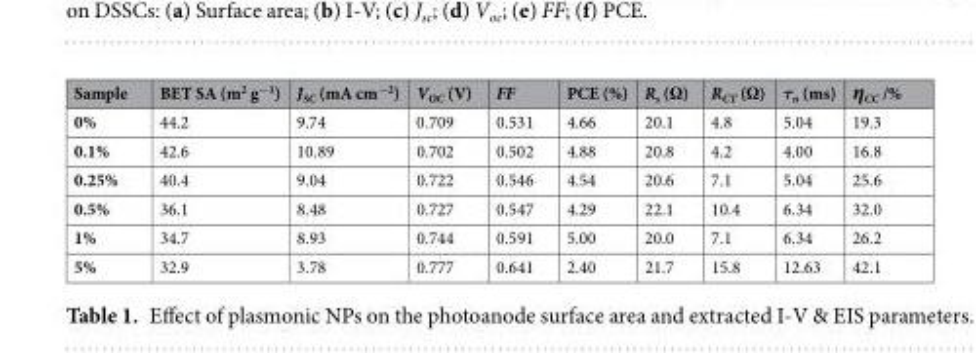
<table><thead><tr><td>Sample</td><td>BET SA (m<sup>2</sup> g<sup>−1</sup>)</td><td>J<sub>SC</sub> (mA cm<sup>−2</sup>)</td><td>V<sub>OC</sub> (V)</td><td>FF</td><td>PCE (%)</td><td>R<sub>s</sub> (Ω)</td><td>R<sub>CT</sub> (Ω)</td><td>τ<sub>n</sub> (ms)</td><td>η<sub>CC</sub> /%</td></tr></thead><tbody><tr><td>0%</td><td>44.2</td><td>9.74</td><td>0.709</td><td>0.531</td><td>4.66</td><td>20.1</td><td>4.8</td><td>5.04</td><td>19.3</td></tr><tr><td>0.1%</td><td>42.6</td><td>10.89</td><td>0.702</td><td>0.502</td><td>4.88</td><td>20.8</td><td>4.2</td><td>4.00</td><td>16.8</td></tr><tr><td>0.25%</td><td>40.4</td><td>9.04</td><td>0.722</td><td>0.546</td><td>4.54</td><td>20.6</td><td>7.1</td><td>5.04</td><td>25.6</td></tr><tr><td>0.5%</td><td>36.1</td><td>8.48</td><td>0.727</td><td>0.547</td><td>4.29</td><td>22.1</td><td>10.4</td><td>6.34</td><td>32.0</td></tr><tr><td>1%</td><td>34.7</td><td>8.93</td><td>0.744</td><td>0.591</td><td>5.00</td><td>20.0</td><td>7.1</td><td>6.34</td><td>26.2</td></tr><tr><td>5%</td><td>32.9</td><td>3.78</td><td>0.777</td><td>0.641</td><td>2.40</td><td>21.7</td><td>15.8</td><td>12.63</td><td>42.1</td></tr></tbody></table>